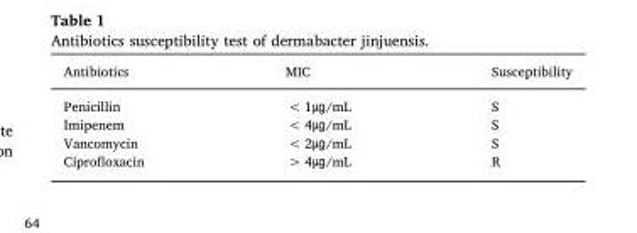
<table><thead><tr><td>Antibiotics</td><td>MIC</td><td>Susceptibility</td></tr></thead><tbody><tr><td>Penicillin</td><td>&lt; 1㎍/mL</td><td>S</td></tr><tr><td>Imipenem</td><td>&lt; 4㎍/mL</td><td>S</td></tr><tr><td>Vancomycin</td><td>&lt; 2㎍/mL</td><td>S</td></tr><tr><td>Ciprofloxacin</td><td>&gt; 4㎍/mL</td><td>R</td></tr></tbody></table>